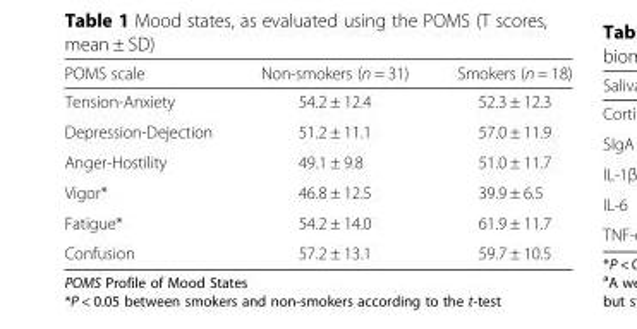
<table><thead><tr><td>POMS scale</td><td>Non-smokers (n = 31)</td><td>Smokers (n = 18)</td></tr></thead><tbody><tr><td>Tension-Anxiety</td><td>54.2 ± 12.4</td><td>52.3 ± 12.3</td></tr><tr><td>Depression-Dejection</td><td>51.2 ± 11.1</td><td>57.0 ± 11.9</td></tr><tr><td>Anger-Hostility</td><td>49.1 ± 9.8</td><td>51.0 ± 11.7</td></tr><tr><td>Vigor*</td><td>46.8 ± 12.5</td><td>39.9 ± 6.5</td></tr><tr><td>Fatigue*</td><td>54.2 ± 14.0</td><td>61.9 ± 11.7</td></tr><tr><td>Confusion</td><td>57.2 ± 13.1</td><td>59.7 ± 10.5</td></tr></tbody></table>